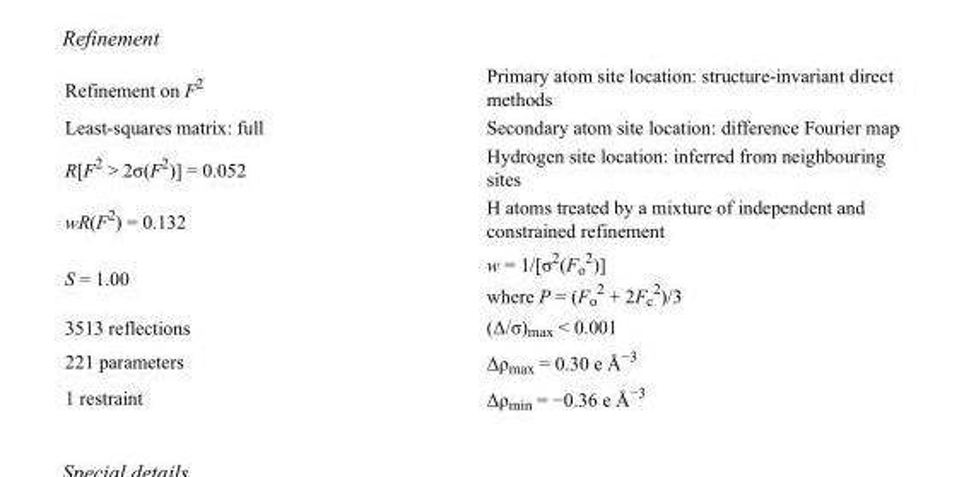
<table><tbody><tr><td>Refinement on F<sup>2</sup></td><td>Primary atom site location: structure-invariant direct methods</td></tr><tr><td>Least-squares matrix: full</td><td>Secondary atom site location: difference Fourier map</td></tr><tr><td>R[F<sup>2</sup> &gt; 2σ(F<sup>2</sup>)] = 0.052</td><td>Hydrogen site location: inferred from neighbouring sites</td></tr><tr><td>wR(F<sup>2</sup>) = 0.132</td><td>H atoms treated by a mixture of independent and constrained refinement</td></tr><tr><td>S = 1.00</td><td>w = 1/[σ<sup>2</sup>(F<sub>o</sub> <sup>2</sup>)] where P = (F<sub>o</sub> <sup>2</sup> + 2F<sub>c</sub> <sup>2</sup>)/3</td></tr><tr><td>3513 reflections</td><td>(Δ/σ)<sub>max</sub> &lt; 0.001</td></tr><tr><td>221 parameters</td><td>Δρ<sub>max</sub> = 0.30 e Å<sup>−3</sup></td></tr><tr><td>1 restraint</td><td>Δρ<sub>min</sub> = −0.36 e Å<sup>−3</sup></td></tr></tbody></table>